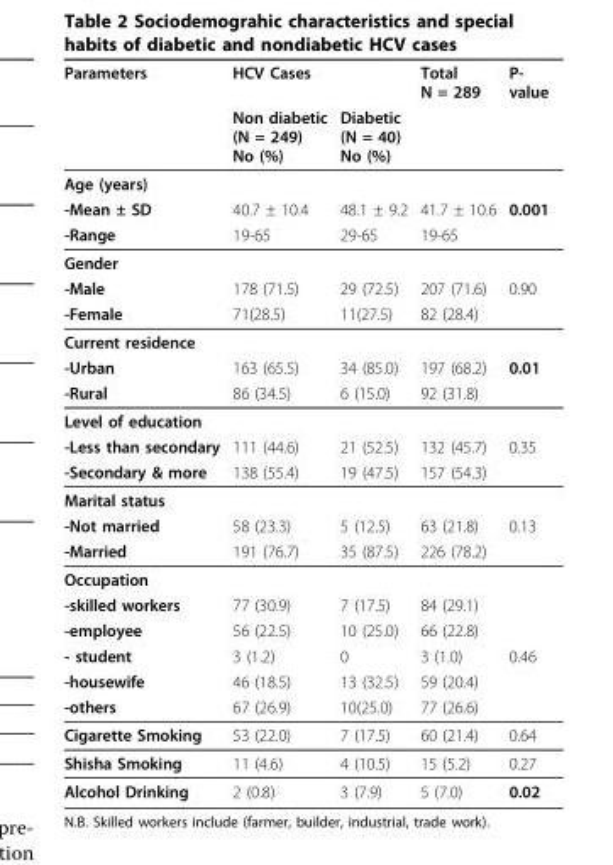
<table><thead><tr><td rowspan="2">Parameters</td><td colspan="2">HCV Cases</td><td rowspan="2">Total N = 289</td><td rowspan="2">P- value</td></tr><tr><td>Non diabetic (N = 249) No (%)</td><td>Diabetic (N = 40) No (%)</td></tr></thead><tbody><tr><td colspan="5">Age (years)</td></tr><tr><td>-Mean ± SD</td><td>40.7 ± 10.4</td><td>48.1 ± 9.2</td><td>41.7 ± 10.6</td><td>0.001</td></tr><tr><td>-Range</td><td>19-65</td><td>29-65</td><td>19-65</td><td></td></tr><tr><td colspan="5">Gender</td></tr><tr><td>-Male</td><td>178 (71.5)</td><td>29 (72.5)</td><td>207 (71.6)</td><td>0.90</td></tr><tr><td>-Female</td><td>71(28.5)</td><td>11(27.5)</td><td>82 (28.4)</td><td></td></tr><tr><td colspan="5">Current residence</td></tr><tr><td>-Urban</td><td>163 (65.5)</td><td>34 (85.0)</td><td>197 (68.2)</td><td>0.01</td></tr><tr><td>-Rural</td><td>86 (34.5)</td><td>6 (15.0)</td><td>92 (31.8)</td><td></td></tr><tr><td colspan="5">Level of education</td></tr><tr><td>-Less than secondary</td><td>111 (44.6)</td><td>21 (52.5)</td><td>132 (45.7)</td><td>0.35</td></tr><tr><td>-Secondary &amp; more</td><td>138 (55.4)</td><td>19 (47.5)</td><td>157 (54.3)</td><td></td></tr><tr><td colspan="5">Marital status</td></tr><tr><td>-Not married</td><td>58 (23.3)</td><td>5 (12.5)</td><td>63 (21.8)</td><td>0.13</td></tr><tr><td>-Married</td><td>191 (76.7)</td><td>35 (87.5)</td><td>226 (78.2)</td><td></td></tr><tr><td colspan="5">Occupation</td></tr><tr><td>-skilled workers</td><td>77 (30.9)</td><td>7 (17.5)</td><td>84 (29.1)</td><td></td></tr><tr><td>-employee</td><td>56 (22.5)</td><td>10 (25.0)</td><td>66 (22.8)</td><td></td></tr><tr><td>- student</td><td>3 (1.2)</td><td>0</td><td>3 (1.0)</td><td>0.46</td></tr><tr><td>-housewife</td><td>46 (18.5)</td><td>13 (32.5)</td><td>59 (20.4)</td><td></td></tr><tr><td>-others</td><td>67 (26.9)</td><td>10(25.0)</td><td>77 (26.6)</td><td></td></tr><tr><td>Cigarette Smoking</td><td>53 (22.0)</td><td>7 (17.5)</td><td>60 (21.4)</td><td>0.64</td></tr><tr><td>Shisha Smoking</td><td>11 (4.6)</td><td>4 (10.5)</td><td>15 (5.2)</td><td>0.27</td></tr><tr><td>Alcohol Drinking</td><td>2 (0.8)</td><td>3 (7.9)</td><td>5 (7.0)</td><td>0.02</td></tr></tbody></table>